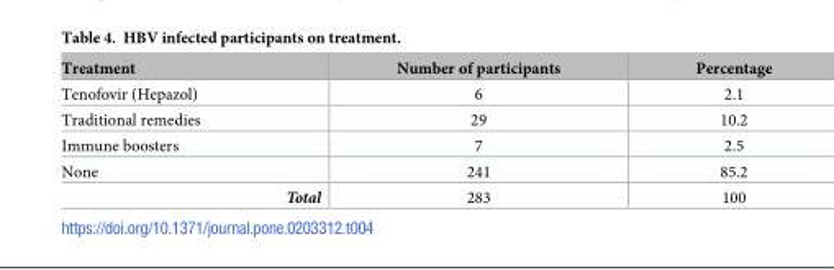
<table><thead><tr><td>Treatment</td><td>Number of participants</td><td>Percentage</td></tr></thead><tbody><tr><td>Tenofovir (Hepazol)</td><td>6</td><td>2.1</td></tr><tr><td>Traditional remedies</td><td>29</td><td>10.2</td></tr><tr><td>Immune boosters</td><td>7</td><td>2.5</td></tr><tr><td>None</td><td>241</td><td>85.2</td></tr><tr><td>Total</td><td>283</td><td>100</td></tr></tbody></table>